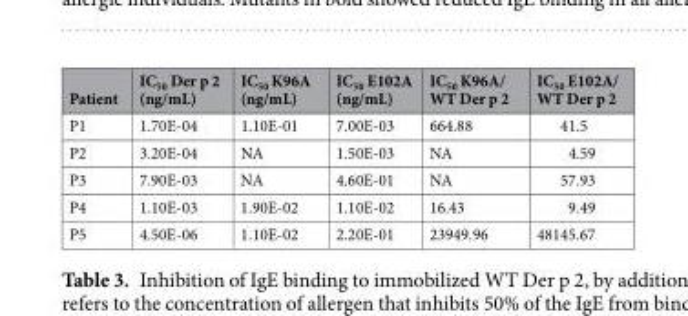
<table><thead><tr><td>Patient</td><td>IC<sub>50</sub> Der p 2 (ng/mL)</td><td>IC<sub>50</sub> K96A (ng/mL)</td><td>IC<sub>50</sub> E102A (ng/mL)</td><td>IC<sub>50</sub> K96A/ WT Der p 2</td><td>IC<sub>50</sub> E102A/ WT Der p 2</td></tr></thead><tbody><tr><td>P1</td><td>1.70E-04</td><td>1.10E-01</td><td>7.00E-03</td><td>664.88</td><td>41.5</td></tr><tr><td>P2</td><td>3.20E-04</td><td>NA</td><td>1.50E-03</td><td>NA</td><td>4.59</td></tr><tr><td>P3</td><td>7.90E-03</td><td>NA</td><td>4.60E-01</td><td>NA</td><td>57.93</td></tr><tr><td>P4</td><td>1.10E-03</td><td>1.90E-02</td><td>1.10E-02</td><td>16.43</td><td>9.49</td></tr><tr><td>P5</td><td>4.50E-06</td><td>1.10E-02</td><td>2.20E-01</td><td>23949.96</td><td>48145.67</td></tr></tbody></table>